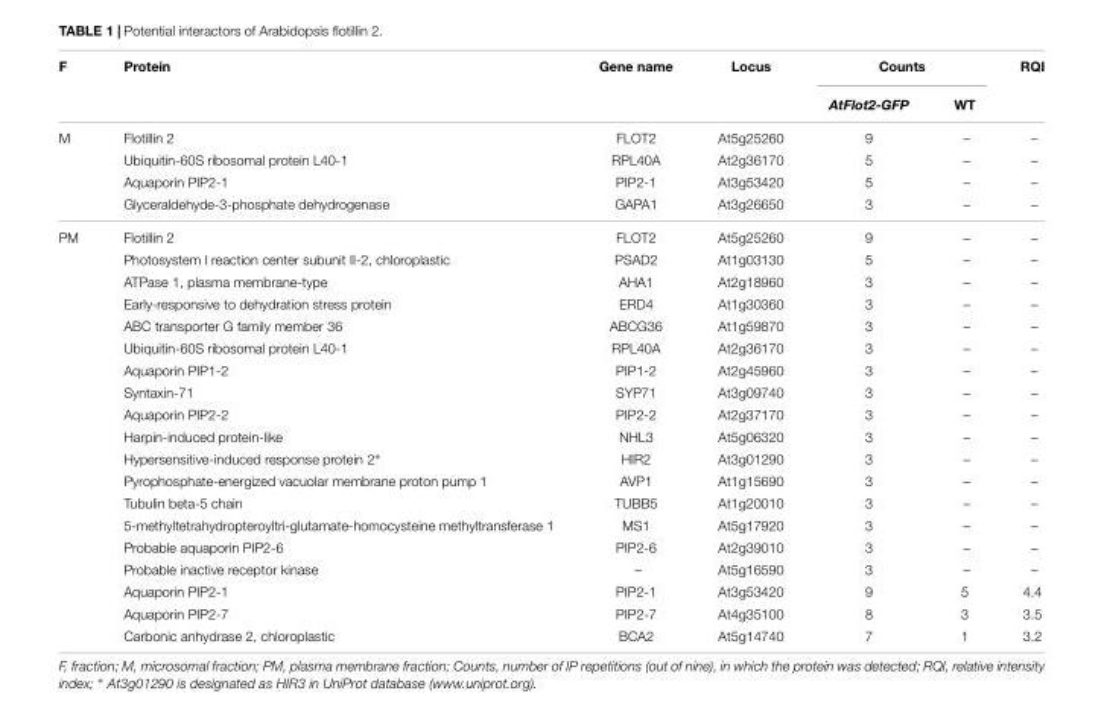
<table><thead><tr><td rowspan="2">F</td><td rowspan="2">Protein</td><td rowspan="2">Gene name</td><td rowspan="2">Locus</td><td colspan="2">Counts</td><td rowspan="2">RQI</td></tr><tr><td>AtFlot2-GFP</td><td>WT</td></tr></thead><tbody><tr><td rowspan="4">M</td><td>Flotillin 2</td><td>FLOT2</td><td>At5g25260</td><td>9</td><td>–</td><td>–</td></tr><tr><td>Ubiquitin-60S ribosomal protein L40-1</td><td>RPL40A</td><td>At2g36170</td><td>5</td><td>–</td><td>–</td></tr><tr><td>Aquaporin PIP2-1</td><td>PIP2-1</td><td>At3g53420</td><td>5</td><td>–</td><td>–</td></tr><tr><td>Glyceraldehyde-3-phosphate dehydrogenase</td><td>GAPA1</td><td>At3g26650</td><td>3</td><td>–</td><td>–</td></tr><tr><td rowspan="19">PM</td><td>Flotillin 2</td><td>FLOT2</td><td>At5g25260</td><td>9</td><td>–</td><td>–</td></tr><tr><td>Photosystem I reaction center subunit II-2, chloroplastic</td><td>PSAD2</td><td>At1g03130</td><td>5</td><td>–</td><td>–</td></tr><tr><td>ATPase 1, plasma membrane-type</td><td>AHA1</td><td>At2g18960</td><td>3</td><td>–</td><td>–</td></tr><tr><td>Early-responsive to dehydration stress protein</td><td>ERD4</td><td>At1g30360</td><td>3</td><td>–</td><td>–</td></tr><tr><td>ABC transporter G family member 36</td><td>ABCG36</td><td>At1g59870</td><td>3</td><td>–</td><td>–</td></tr><tr><td>Ubiquitin-60S ribosomal protein L40-1</td><td>RPL40A</td><td>At2g36170</td><td>3</td><td>–</td><td>–</td></tr><tr><td>Aquaporin PIP1-2</td><td>PIP1-2</td><td>At2g45960</td><td>3</td><td>–</td><td>–</td></tr><tr><td>Syntaxin-71</td><td>SYP71</td><td>At3g09740</td><td>3</td><td>–</td><td>–</td></tr><tr><td>Aquaporin PIP2-2</td><td>PIP2-2</td><td>At2g37170</td><td>3</td><td>–</td><td>–</td></tr><tr><td>Harpin-induced protein-like</td><td>NHL3</td><td>At5g06320</td><td>3</td><td>–</td><td>–</td></tr><tr><td>Hypersensitive-induced response protein 2∗</td><td>HIR2</td><td>At3g01290</td><td>3</td><td>–</td><td>–</td></tr><tr><td>Pyrophosphate-energized vacuolar membrane proton pump 1</td><td>AVP1</td><td>At1g15690</td><td>3</td><td>–</td><td>–</td></tr><tr><td>Tubulin beta-5 chain</td><td>TUBB5</td><td>At1g20010</td><td>3</td><td>–</td><td>–</td></tr><tr><td>5-methyltetrahydropteroyltri-glutamate-homocysteine methyltransferase 1</td><td>MS1</td><td>At5g17920</td><td>3</td><td>–</td><td>–</td></tr><tr><td>Probable aquaporin PIP2-6</td><td>PIP2-6</td><td>At2g39010</td><td>3</td><td>–</td><td>–</td></tr><tr><td>Probable inactive receptor kinase</td><td>–</td><td>At5g16590</td><td>3</td><td>–</td><td>–</td></tr><tr><td>Aquaporin PIP2-1</td><td>PIP2-1</td><td>At3g53420</td><td>9</td><td>5</td><td>4.4</td></tr><tr><td>Aquaporin PIP2-7</td><td>PIP2-7</td><td>At4g35100</td><td>8</td><td>3</td><td>3.5</td></tr><tr><td>Carbonic anhydrase 2, chloroplastic</td><td>BCA2</td><td>At5g14740</td><td>7</td><td>1</td><td>3.2</td></tr></tbody></table>